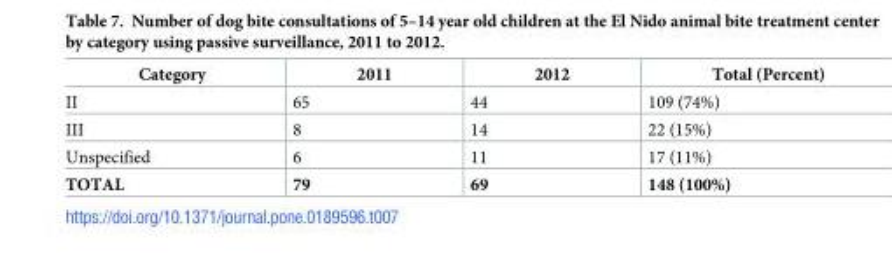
<table><thead><tr><td>Category</td><td>2011</td><td>2012</td><td>Total (Percent)</td></tr></thead><tbody><tr><td>II</td><td>65</td><td>44</td><td>109 (74%)</td></tr><tr><td>III</td><td>8</td><td>14</td><td>22 (15%)</td></tr><tr><td>Unspecified</td><td>6</td><td>11</td><td>17 (11%)</td></tr><tr><td>TOTAL</td><td>79</td><td>69</td><td>148 (100%)</td></tr></tbody></table>